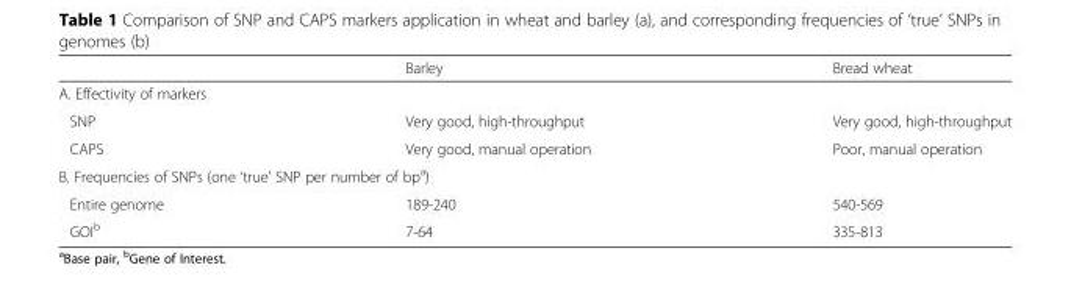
<table><thead><tr><td></td><td>Barley</td><td>Bread wheat</td></tr></thead><tbody><tr><td colspan="3">A. Effectivity of markers</td></tr><tr><td>SNP</td><td>Very good, high-throughput</td><td>Very good, high-throughput</td></tr><tr><td>CAPS</td><td>Very good, manual operation</td><td>Poor, manual operation</td></tr><tr><td colspan="3">B. Frequencies of SNPs (one ‘true’ SNP per number of bp<sup>a</sup>)</td></tr><tr><td>Entire genome</td><td>189-240</td><td>540-569</td></tr><tr><td>GOI<sup>b</sup></td><td>7-64</td><td>335-813</td></tr></tbody></table>